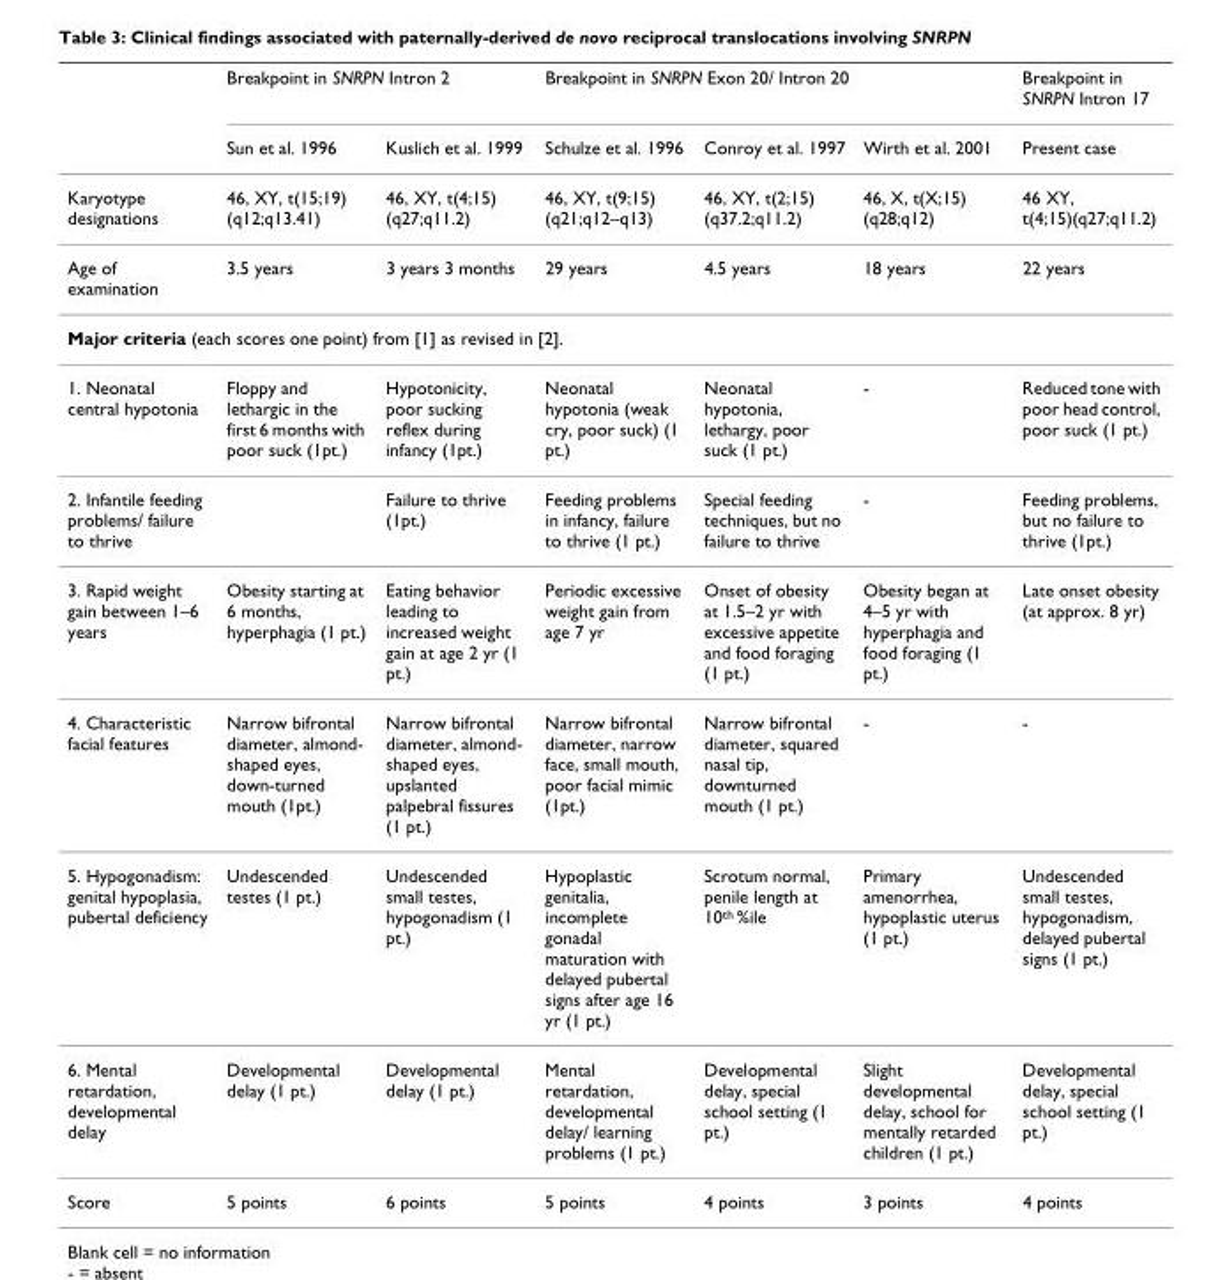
<table><thead><tr><td rowspan="2"></td><td colspan="2">Breakpoint in SNRPN Intron 2</td><td colspan="3">Breakpoint in SNRPN Exon 20/ Intron 20</td><td rowspan="2">Breakpoint in SNRPN Intron 17 Present case</td></tr><tr><td>Sun et al. 1996</td><td>Kuslich et al. 1999</td><td>Schulze et al. 1996</td><td>Conroy et al. 1997</td><td>Wirth et al. 2001</td></tr></thead><tbody><tr><td>Karyotype designations</td><td>46, XY, t(15;19) (q12;q13.41)</td><td>46, XY, t(4;15) (q27;q11.2)</td><td>46, XY, t(9;15) (q21;q12–q13)</td><td>46, XY, t(2;15) (q37.2;q11.2)</td><td>46, X, t(X;15) (q28;q12)</td><td>46 XY, t(4;15)(q27;q11.2)</td></tr><tr><td>Age of examination</td><td>3.5 years</td><td>3 years 3 months</td><td>29 years</td><td>4.5 years</td><td>18 years</td><td>22 years</td></tr><tr><td colspan="7">Major criteria (each scores one point) from [1] as revised in [2].</td></tr><tr><td>1. Neonatal central hypotonia</td><td>Floppy and lethargic in the first 6 months with poor suck (1pt.)</td><td>Hypotonicity, poor sucking reflex during infancy (1pt.)</td><td>Neonatal hypotonia (weak cry, poor suck) (1 pt.)</td><td>Neonatal hypotonia, lethargy, poor suck (1 pt.)</td><td>-</td><td>Reduced tone with poor head control, poor suck (1 pt.)</td></tr><tr><td>2. Infantile feeding problems/ failure to thrive</td><td></td><td>Failure to thrive (1pt.)</td><td>Feeding problems in infancy, failure to thrive (1 pt.)</td><td>Special feeding techniques, but no failure to thrive</td><td>-</td><td>Feeding problems, but no failure to thrive (1pt.)</td></tr><tr><td>3. Rapid weight gain between 1–6 years</td><td>Obesity starting at 6 months, hyperphagia (1 pt.)</td><td>Eating behavior leading to increased weight gain at age 2 yr (1 pt.)</td><td>Periodic excessive weight gain from age 7 yr</td><td>Onset of obesity at 1.5–2 yr with excessive appetite and food foraging (1 pt.)</td><td>Obesity began at 4–5 yr with hyperphagia and food foraging (1 pt.)</td><td>Late onset obesity (at approx. 8 yr)</td></tr><tr><td>4. Characteristic facial features</td><td>Narrow bifrontal diameter, almond- shaped eyes, down-turned mouth (1pt.)</td><td>Narrow bifrontal diameter, almond- shaped eyes, upslanted palpebral fissures (1 pt.)</td><td>Narrow bifrontal diameter, narrow face, small mouth, poor facial mimic (1pt.)</td><td>Narrow bifrontal diameter, squared nasal tip, downturned mouth (1 pt.)</td><td>-</td><td>-</td></tr><tr><td>5. Hypogonadism: genital hypoplasia, pubertal deficiency</td><td>Undescended testes (1 pt.)</td><td>Undescended small testes, hypogonadism (1 pt.)</td><td>Hypoplastic genitalia, incomplete gonadal maturation with delayed pubertal signs after age 16 yr (1 pt.)</td><td>Scrotum normal, penile length at 10th %ile</td><td>Primary amenorrhea, hypoplastic uterus (1 pt.)</td><td>Undescended small testes, hypogonadism, delayed pubertal signs (1 pt.)</td></tr><tr><td>6. Mental retardation, developmental delay</td><td>Developmental delay (1 pt.)</td><td>Developmental delay (1 pt.)</td><td>Mental retardation, developmental delay/ learning problems (1 pt.)</td><td>Developmental delay, special school setting (1 pt.)</td><td>Slight developmental delay, school for mentally retarded children (1 pt.)</td><td>Developmental delay, special school setting (1 pt.)</td></tr><tr><td>Score</td><td>5 points</td><td>6 points</td><td>5 points</td><td>4 points</td><td>3 points</td><td>4 points</td></tr></tbody></table>